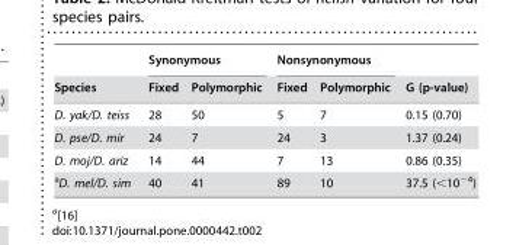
<table><thead><tr><td rowspan="2">Species</td><td colspan="2">Synonymous</td><td colspan="2">Nonsynonymous</td><td rowspan="2">G (p-value)</td></tr><tr><td>Fixed</td><td>Polymorphic</td><td>Fixed</td><td>Polymorphic</td></tr></thead><tbody><tr><td>D. yak/D. teiss</td><td>28</td><td>50</td><td>5</td><td>7</td><td>0.15 (0.70)</td></tr><tr><td>D. pse/D. mir</td><td>24</td><td>7</td><td>24</td><td>3</td><td>1.37 (0.24)</td></tr><tr><td>D. moj/D. ariz</td><td>14</td><td>44</td><td>7</td><td>13</td><td>0.86 (0.35)</td></tr><tr><td>aD. mel/D. sim</td><td>40</td><td>41</td><td>89</td><td>10</td><td>37.5 (&lt;10<sup>−4</sup>)</td></tr></tbody></table>